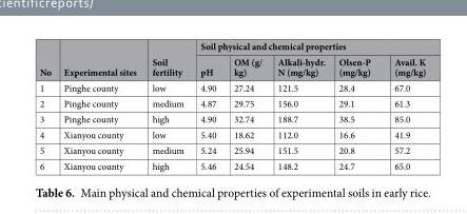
<table><thead><tr><td rowspan="2">No</td><td rowspan="2">Experimental sites</td><td rowspan="2">Soil fertility</td><td colspan="5">Soil physical and chemical properties</td></tr><tr><td>pH</td><td>OM (g/ kg)</td><td>Alkali-hydr. N (mg/kg)</td><td>Olsen-P (mg/kg)</td><td>Avail. K (mg/kg)</td></tr></thead><tbody><tr><td>1</td><td>Pinghe county</td><td>low</td><td>4.90</td><td>27.24</td><td>121.5</td><td>28.4</td><td>67.0</td></tr><tr><td>2</td><td>Pinghe county</td><td>medium</td><td>4.87</td><td>29.75</td><td>156.0</td><td>29.1</td><td>61.3</td></tr><tr><td>3</td><td>Pinghe county</td><td>high</td><td>4.90</td><td>32.74</td><td>188.7</td><td>38.5</td><td>85.0</td></tr><tr><td>4</td><td>Xianyou county</td><td>low</td><td>5.40</td><td>18.62</td><td>112.0</td><td>16.6</td><td>41.9</td></tr><tr><td>5</td><td>Xianyou county</td><td>medium</td><td>5.24</td><td>25.94</td><td>151.5</td><td>20.8</td><td>57.2</td></tr><tr><td>6</td><td>Xianyou county</td><td>high</td><td>5.46</td><td>24.54</td><td>148.2</td><td>24.7</td><td>65.0</td></tr></tbody></table>